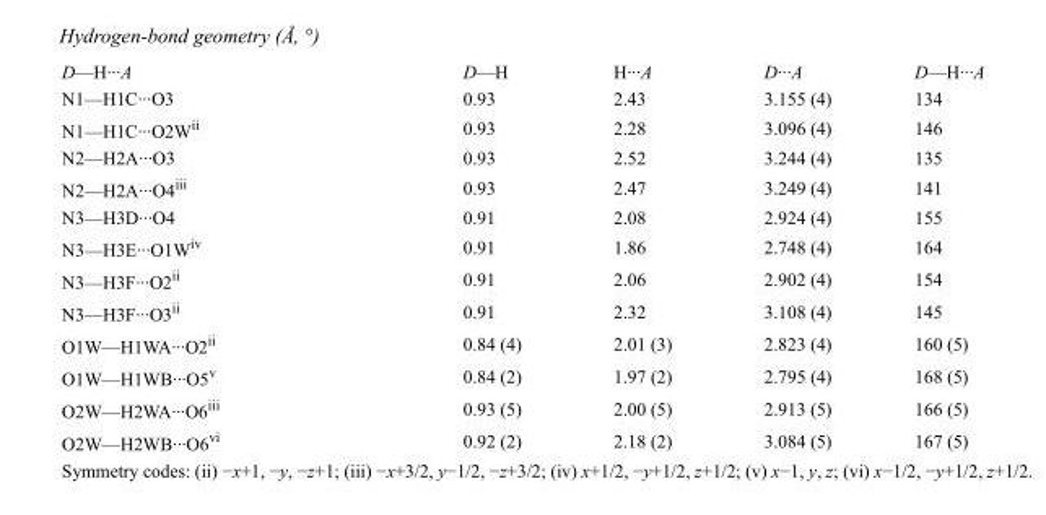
<table><tbody><tr><td>D—H···A</td><td>D—H</td><td>H···A</td><td>D···A</td><td>D—H···A</td></tr><tr><td>N1—H1C···O3</td><td>0.93</td><td>2.43</td><td>3.155 (4)</td><td>134</td></tr><tr><td>N1—H1C···O2W<sup>ii</sup></td><td>0.93</td><td>2.28</td><td>3.096 (4)</td><td>146</td></tr><tr><td>N2—H2A···O3</td><td>0.93</td><td>2.52</td><td>3.244 (4)</td><td>135</td></tr><tr><td>N2—H2A···O4<sup>iii</sup></td><td>0.93</td><td>2.47</td><td>3.249 (4)</td><td>141</td></tr><tr><td>N3—H3D···O4</td><td>0.91</td><td>2.08</td><td>2.924 (4)</td><td>155</td></tr><tr><td>N3—H3E···O1W<sup>iv</sup></td><td>0.91</td><td>1.86</td><td>2.748 (4)</td><td>164</td></tr><tr><td>N3—H3F···O2<sup>ii</sup></td><td>0.91</td><td>2.06</td><td>2.902 (4)</td><td>154</td></tr><tr><td>N3—H3F···O3<sup>ii</sup></td><td>0.91</td><td>2.32</td><td>3.108 (4)</td><td>145</td></tr><tr><td>O1W—H1WA···O2<sup>ii</sup></td><td>0.84 (4)</td><td>2.01 (3)</td><td>2.823 (4)</td><td>160 (5)</td></tr><tr><td>O1W—H1WB···O5<sup>v</sup></td><td>0.84 (2)</td><td>1.97 (2)</td><td>2.795 (4)</td><td>168 (5)</td></tr><tr><td>O2W—H2WA···O6<sup>iii</sup></td><td>0.93 (5)</td><td>2.00 (5)</td><td>2.913 (5)</td><td>166 (5)</td></tr><tr><td>O2W—H2WB···O6<sup>vi</sup></td><td>0.92 (2)</td><td>2.18 (2)</td><td>3.084 (5)</td><td>167 (5)</td></tr></tbody></table>